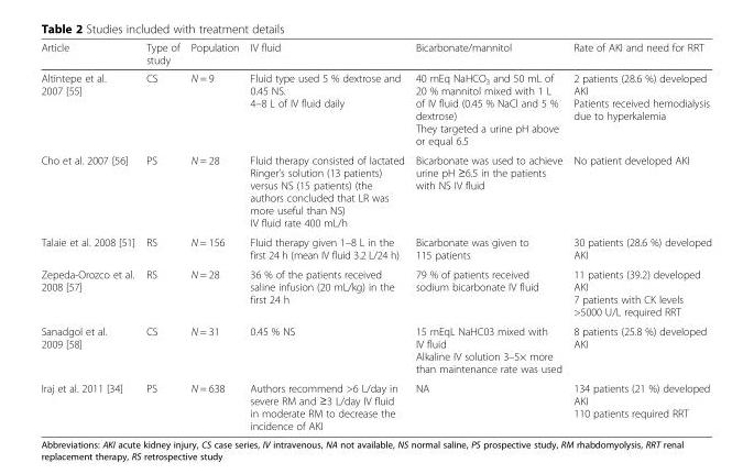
<table><thead><tr><td>Article</td><td>Type of study</td><td>Population</td><td>IV fluid</td><td>Bicarbonate/mannitol</td><td>Rate of AKI and need for RRT</td></tr></thead><tbody><tr><td>Altintepe et al. 2007 [55]</td><td>CS</td><td>N = 9</td><td>Fluid type used 5 % dextrose and 0.45 NS. 4–8 L of IV fluid daily</td><td>40 mEq NaHCO<sub>3</sub> and 50 mL of 20 % mannitol mixed with 1 L of IV fluid (0.45 % NaCl and 5 % dextrose) They targeted a urine pH above or equal 6.5</td><td>2 patients (28.6 %) developed AKI Patients received hemodialysis due to hyperkalemia</td></tr><tr><td>Cho et al. 2007 [56]</td><td>PS</td><td>N = 28</td><td>Fluid therapy consisted of lactated Ringer’s solution (13 patients) versus NS (15 patients) (the authors concluded that LR was more useful than NS) IV fluid rate 400 mL/h</td><td>Bicarbonate was used to achieve urine pH ≥6.5 in the patients with NS IV fluid</td><td>No patient developed AKI</td></tr><tr><td>Talaie et al. 2008 [51]</td><td>RS</td><td>N = 156</td><td>Fluid therapy given 1–8 L in the first 24 h (mean IV fluid 3.2 L/24 h)</td><td>Bicarbonate was given to 115 patients</td><td>30 patients (28.6 %) developed AKI</td></tr><tr><td>Zepeda-Orozco et al. 2008 [57]</td><td>RS</td><td>N = 28</td><td>36 % of the patients received saline infusion (20 mL/kg) in the first 24 h</td><td>79 % of patients received sodium bicarbonate IV fluid</td><td>11 patients (39.2) developed AKI 7 patients with CK levels &gt;5000 U/L required RRT</td></tr><tr><td>Sanadgol et al. 2009 [58]</td><td>CS</td><td>N = 31</td><td>0.45 % NS</td><td>15 mEqL NaHC03 mixed with IV fluid Alkaline IV solution 3–5× more than maintenance rate was used</td><td>8 patients (25.8 %) developed AKI</td></tr><tr><td>Iraj et al. 2011 [34]</td><td>PS</td><td>N = 638</td><td>Authors recommend &gt;6 L/day in severe RM and ≥3 L/day IV fluid in moderate RM to decrease the incidence of AKI</td><td>NA</td><td>134 patients (21 %) developed AKI 110 patients required RRT</td></tr></tbody></table>